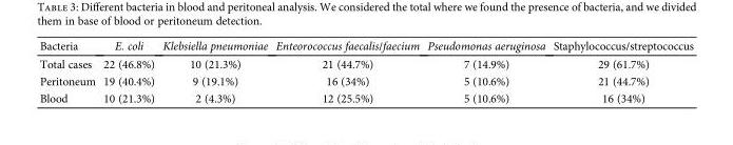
<table><thead><tr><td>Bacteria</td><td>E. coli</td><td>Klebsiella pneumoniae</td><td>Enteorococcus faecalis/faecium</td><td>Pseudomonas aeruginosa</td><td>Staphylococcus/streptococcus</td></tr></thead><tbody><tr><td>Total cases</td><td>22 (46.8%)</td><td>10 (21.3%)</td><td>21 (44.7%)</td><td>7 (14.9%)</td><td>29 (61.7%)</td></tr><tr><td>Peritoneum</td><td>19 (40.4%)</td><td>9 (19.1%)</td><td>16 (34%)</td><td>5 (10.6%)</td><td>21 (44.7%)</td></tr><tr><td>Blood</td><td>10 (21.3%)</td><td>2 (4.3%)</td><td>12 (25.5%)</td><td>5 (10.6%)</td><td>16 (34%)</td></tr></tbody></table>